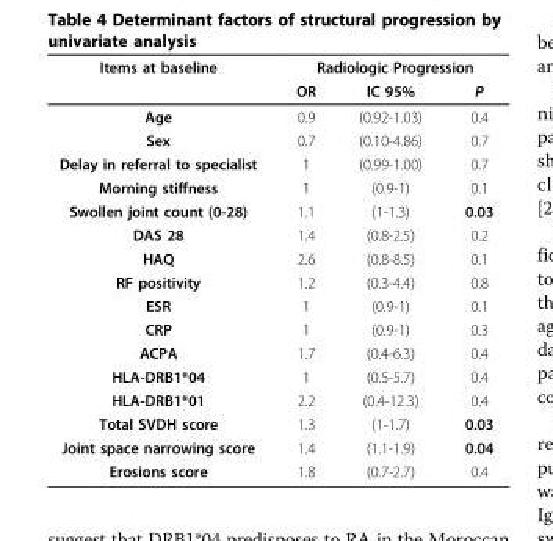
<table><thead><tr><td rowspan="2">Items at baseline</td><td colspan="3">Radiologic Progression</td></tr><tr><td>OR</td><td>IC 95%</td><td>P</td></tr></thead><tbody><tr><td>Age</td><td>0.9</td><td>(0.92-1.03)</td><td>0.4</td></tr><tr><td>Sex</td><td>0.7</td><td>(0.10-4.86)</td><td>0.7</td></tr><tr><td>Delay in referral to specialist</td><td>1</td><td>(0.99-1.00)</td><td>0.7</td></tr><tr><td>Morning stiffness</td><td>1</td><td>(0.9-1)</td><td>0.1</td></tr><tr><td>Swollen joint count (0-28)</td><td>1.1</td><td>(1-1.3)</td><td>0.03</td></tr><tr><td>DAS 28</td><td>1.4</td><td>(0.8-2.5)</td><td>0.2</td></tr><tr><td>HAQ</td><td>2.6</td><td>(0.8-8.5)</td><td>0.1</td></tr><tr><td>RF positivity</td><td>1.2</td><td>(0.3-4.4)</td><td>0.8</td></tr><tr><td>ESR</td><td>1</td><td>(0.9-1)</td><td>0.1</td></tr><tr><td>CRP</td><td>1</td><td>(0.9-1)</td><td>0.3</td></tr><tr><td>ACPA</td><td>1.7</td><td>(0.4-6.3)</td><td>0.4</td></tr><tr><td>HLA-DRB1*04</td><td>1</td><td>(0.5-5.7)</td><td>0.4</td></tr><tr><td>HLA-DRB1*01</td><td>2.2</td><td>(0.4-12.3)</td><td>0.4</td></tr><tr><td>Total SVDH score</td><td>1.3</td><td>(1-1.7)</td><td>0.03</td></tr><tr><td>Joint space narrowing score</td><td>1.4</td><td>(1.1-1.9)</td><td>0.04</td></tr><tr><td>Erosions score</td><td>1.8</td><td>(0.7-2.7)</td><td>0.4</td></tr></tbody></table>